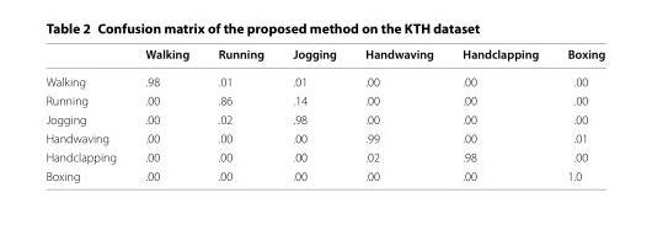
<table><thead><tr><td></td><td>Walking</td><td>Running</td><td>Jogging</td><td>Handwaving</td><td>Handclapping</td><td>Boxing</td></tr></thead><tbody><tr><td>Walking</td><td>.98</td><td>.01</td><td>.01</td><td>.00</td><td>.00</td><td>.00</td></tr><tr><td>Running</td><td>.00</td><td>.86</td><td>.14</td><td>.00</td><td>.00</td><td>.00</td></tr><tr><td>Jogging</td><td>.00</td><td>.02</td><td>.98</td><td>.00</td><td>.00</td><td>.00</td></tr><tr><td>Handwaving</td><td>.00</td><td>.00</td><td>.00</td><td>.99</td><td>.00</td><td>.01</td></tr><tr><td>Handclapping</td><td>.00</td><td>.00</td><td>.00</td><td>.02</td><td>.98</td><td>.00</td></tr><tr><td>Boxing</td><td>.00</td><td>.00</td><td>.00</td><td>.00</td><td>.00</td><td>1.0</td></tr></tbody></table>